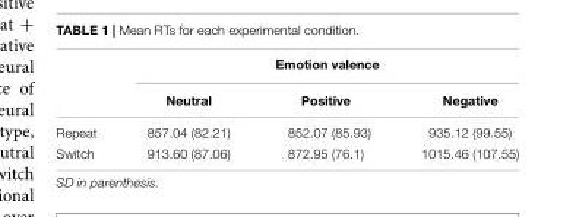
<table><thead><tr><td rowspan="2"></td><td colspan="3">Emotion valence</td></tr><tr><td>Neutral</td><td>Positive</td><td>Negative</td></tr></thead><tbody><tr><td>Repeat</td><td>857.04 (82.21)</td><td>852.07 (85.93)</td><td>935.12 (99.55)</td></tr><tr><td>Switch</td><td>913.60 (87.06)</td><td>872.95 (76.1)</td><td>1015.46 (107.55)</td></tr></tbody></table>